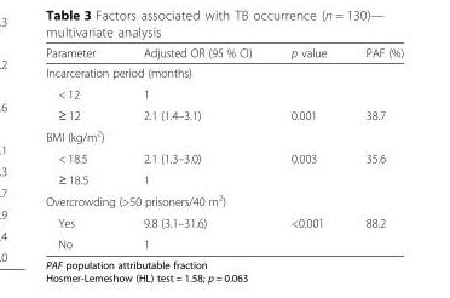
<table><thead><tr><td>Parameter</td><td>Adjusted OR (95 % CI)</td><td>p value</td><td>PAF (%)</td></tr></thead><tbody><tr><td colspan="4">Incarceration period (months)</td></tr><tr><td>&lt; 12</td><td>1</td><td></td><td></td></tr><tr><td>≥ 12</td><td>2.1 (1.4–3.1)</td><td>0.001</td><td>38.7</td></tr><tr><td colspan="4">BMI (kg/m<sup>2</sup>)</td></tr><tr><td>&lt; 18.5</td><td>2.1 (1.3–3.0)</td><td>0.003</td><td>35.6</td></tr><tr><td>≥ 18.5</td><td>1</td><td></td><td></td></tr><tr><td colspan="4">Overcrowding (&gt;50 prisoners/40 m<sup>2</sup>)</td></tr><tr><td>Yes</td><td>9.8 (3.1–31.6)</td><td>&lt;0.001</td><td>88.2</td></tr><tr><td>No</td><td>1</td><td></td><td></td></tr></tbody></table>